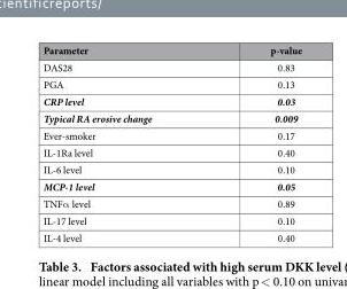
<table><thead><tr><td>Parameter</td><td>p-value</td></tr></thead><tbody><tr><td>DAS28</td><td>0.83</td></tr><tr><td>PGA</td><td>0.13</td></tr><tr><td>CRP level</td><td>0.03</td></tr><tr><td>Typical RA erosive change</td><td>0.009</td></tr><tr><td>Ever-smoker</td><td>0.17</td></tr><tr><td>IL-1Ra level</td><td>0.40</td></tr><tr><td>IL-6 level</td><td>0.10</td></tr><tr><td>MCP-1 level</td><td>0.05</td></tr><tr><td>TNFα level</td><td>0.89</td></tr><tr><td>IL-17 level</td><td>0.10</td></tr><tr><td>IL-4 level</td><td>0.40</td></tr></tbody></table>